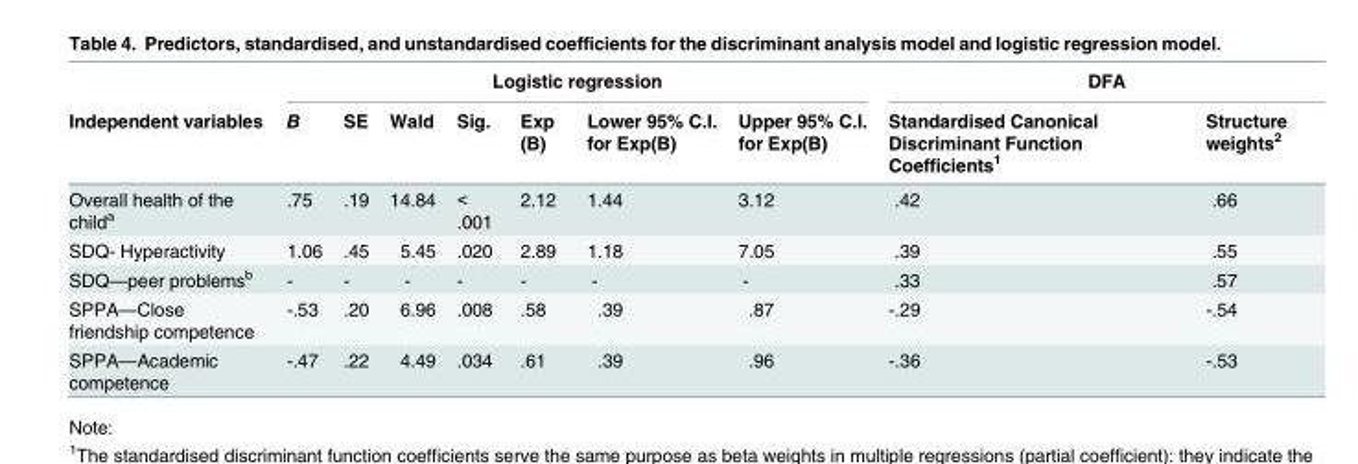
<table><thead><tr><td rowspan="2">Independent variables</td><td colspan="7">Logistic regression</td><td colspan="2">DFA</td></tr><tr><td>B</td><td>SE</td><td>Wald</td><td>Sig.</td><td>Exp (B)</td><td>Lower 95% C.I. for Exp(B)</td><td>Upper 95% C.I. for Exp(B)</td><td>Standardised Canonical Discriminant Function Coefficients<sup>1</sup></td><td>Structure weights<sup>2</sup></td></tr></thead><tbody><tr><td>Overall health of the child<sup>a</sup></td><td>.75</td><td>.19</td><td>14.84</td><td>&lt; .001</td><td>2.12</td><td>1.44</td><td>3.12</td><td>.42</td><td>.66</td></tr><tr><td>SDQ- Hyperactivity</td><td>1.06</td><td>.45</td><td>5.45</td><td>.020</td><td>2.89</td><td>1.18</td><td>7.05</td><td>.39</td><td>.55</td></tr><tr><td>SDQ—peer problems<sup>b</sup></td><td>-</td><td>-</td><td>-</td><td>-</td><td>-</td><td>-</td><td>-</td><td>.33</td><td>.57</td></tr><tr><td>SPPA—Close friendship competence</td><td>-.53</td><td>.20</td><td>6.96</td><td>.008</td><td>.58</td><td>.39</td><td>.87</td><td>-.29</td><td>-.54</td></tr><tr><td>SPPA—Academic competence</td><td>-.47</td><td>.22</td><td>4.49</td><td>.034</td><td>.61</td><td>.39</td><td>.96</td><td>-.36</td><td>-.53</td></tr></tbody></table>